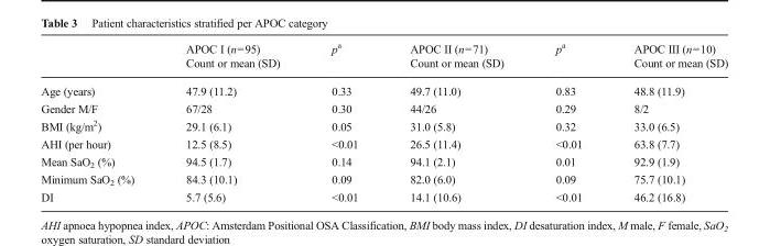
<table><thead><tr><td rowspan="2"></td><td rowspan="2">APOC I (n=95) Count or mean (SD)</td><td rowspan="2">p<sup>a</sup></td><td rowspan="2">APOC II (n=71) Count or mean (SD)</td><td rowspan="2">p<sup>a</sup></td><td rowspan="2">APOC III (n=10) Count or mean (SD)</td></tr><tr></tr></thead><tbody><tr><td>Age (years)</td><td>47.9 (11.2)</td><td>0.33</td><td>49.7 (11.0)</td><td>0.83</td><td>48.8 (11.9)</td></tr><tr><td>Gender M/F</td><td>67/28</td><td>0.30</td><td>44/26</td><td>0.29</td><td>8/2</td></tr><tr><td>BMI (kg/m<sup>2</sup>)</td><td>29.1 (6.1)</td><td>0.05</td><td>31.0 (5.8)</td><td>0.32</td><td>33.0 (6.5)</td></tr><tr><td>AHI (per hour)</td><td>12.5 (8.5)</td><td>&lt;0.01</td><td>26.5 (11.4)</td><td>&lt;0.01</td><td>63.8 (7.7)</td></tr><tr><td>Mean SaO<sub>2</sub> (%)</td><td>94.5 (1.7)</td><td>0.14</td><td>94.1 (2.1)</td><td>0.01</td><td>92.9 (1.9)</td></tr><tr><td>Minimum SaO<sub>2</sub> (%)</td><td>84.3 (10.1)</td><td>0.09</td><td>82.0 (6.0)</td><td>0.09</td><td>75.7 (10.1)</td></tr><tr><td>DI</td><td>5.7 (5.6)</td><td>&lt;0.01</td><td>14.1 (10.6)</td><td>&lt;0.01</td><td>46.2 (16.8)</td></tr></tbody></table>